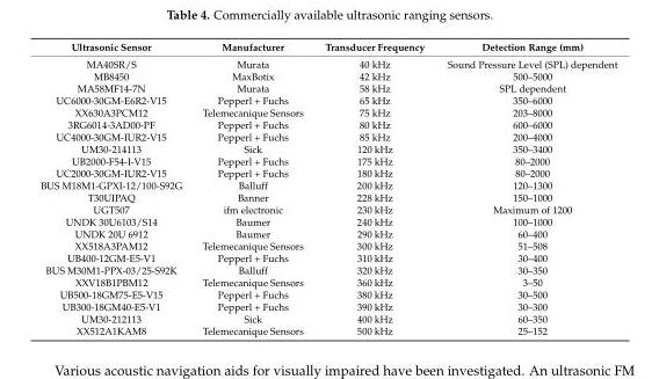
<table><thead><tr><td>Ultrasonic Sensor</td><td>Manufacturer</td><td>Transducer Frequency</td><td>Detection Range (mm)</td></tr></thead><tbody><tr><td>MA40SR/S</td><td>Murata</td><td>40 kHz</td><td>Sound Pressure Level (SPL) dependent</td></tr><tr><td>MB8450</td><td>MaxBotix</td><td>42 kHz</td><td>500–5000</td></tr><tr><td>MA58MF14-7N</td><td>Murata</td><td>58 kHz</td><td>SPL dependent</td></tr><tr><td>UC6000-30GM-E6R2-V15</td><td>Pepperl + Fuchs</td><td>65 kHz</td><td>350–6000</td></tr><tr><td>XX630A3PCM12</td><td>Telemecanique Sensors</td><td>75 kHz</td><td>203–8000</td></tr><tr><td>3RG6014-3AD00-PF</td><td>Pepperl + Fuchs</td><td>80 kHz</td><td>600–6000</td></tr><tr><td>UC4000-30GM-IUR2-V15</td><td>Pepperl + Fuchs</td><td>85 kHz</td><td>200–4000</td></tr><tr><td>UM30-214113</td><td>Sick</td><td>120 kHz</td><td>350–3400</td></tr><tr><td>UB2000-F54-I-V15</td><td>Pepperl + Fuchs</td><td>175 kHz</td><td>80–2000</td></tr><tr><td>UC2000-30GM-IUR2-V15</td><td>Pepperl + Fuchs</td><td>180 kHz</td><td>80–2000</td></tr><tr><td>BUS M18M1-GPXI-12/100-S92G</td><td>Balluff</td><td>200 kHz</td><td>120–1300</td></tr><tr><td>T30UIPAQ</td><td>Banner</td><td>228 kHz</td><td>150–1000</td></tr><tr><td>UGT507</td><td>ifm electronic</td><td>230 kHz</td><td>Maximum of 1200</td></tr><tr><td>UNDK 30U6103/S14</td><td>Baumer</td><td>240 kHz</td><td>100–1000</td></tr><tr><td>UNDK 20U 6912</td><td>Baumer</td><td>290 kHz</td><td>60–400</td></tr><tr><td>XX518A3PAM12</td><td>Telemecanique Sensors</td><td>300 kHz</td><td>51–508</td></tr><tr><td>UB400-12GM-E5-V1</td><td>Pepperl + Fuchs</td><td>310 kHz</td><td>30–400</td></tr><tr><td>BUS M30M1-PPX-03/25-S92K</td><td>Balluff</td><td>320 kHz</td><td>30–350</td></tr><tr><td>XXV18B1PBM12</td><td>Telemecanique Sensors</td><td>360 kHz</td><td>3–50</td></tr><tr><td>UB500-18GM75-E5-V15</td><td>Pepperl + Fuchs</td><td>380 kHz</td><td>30–500</td></tr><tr><td>UB300-18GM40-E5-V1</td><td>Pepperl + Fuchs</td><td>390 kHz</td><td>30–300</td></tr><tr><td>UM30-212113</td><td>Sick</td><td>400 kHz</td><td>60–350</td></tr><tr><td>XX512A1KAM8</td><td>Telemecanique Sensors</td><td>500 kHz</td><td>25–152</td></tr></tbody></table>